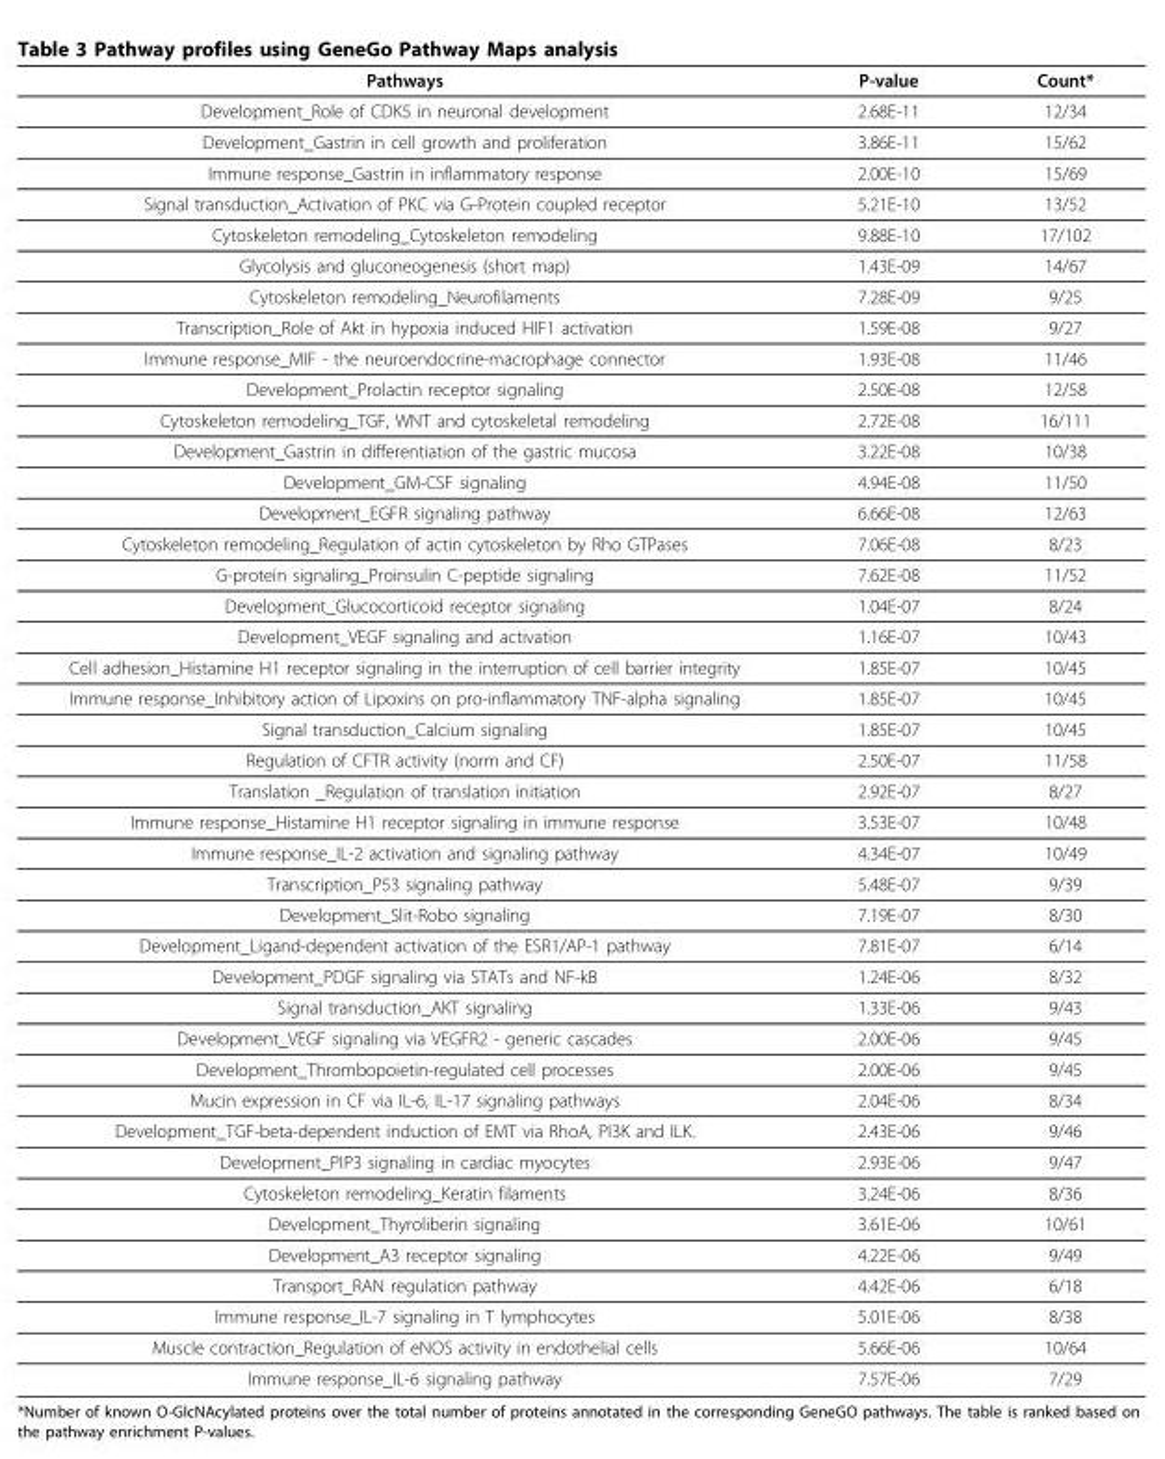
<table><thead><tr><td>Pathways</td><td>P-value</td><td>Count*</td></tr></thead><tbody><tr><td>Development_Role of CDK5 in neuronal development</td><td>2.68E-11</td><td>12/34</td></tr><tr><td>Development_Gastrin in cell growth and proliferation</td><td>3.86E-11</td><td>15/62</td></tr><tr><td>Immune response_Gastrin in inflammatory response</td><td>2.00E-10</td><td>15/69</td></tr><tr><td>Signal transduction_Activation of PKC via G-Protein coupled receptor</td><td>5.21E-10</td><td>13/52</td></tr><tr><td>Cytoskeleton remodeling_Cytoskeleton remodeling</td><td>9.88E-10</td><td>17/102</td></tr><tr><td>Glycolysis and gluconeogenesis (short map)</td><td>1.43E-09</td><td>14/67</td></tr><tr><td>Cytoskeleton remodeling_Neurofilaments</td><td>7.28E-09</td><td>9/25</td></tr><tr><td>Transcription_Role of Akt in hypoxia induced HIF1 activation</td><td>1.59E-08</td><td>9/27</td></tr><tr><td>Immune response_MIF - the neuroendocrine-macrophage connector</td><td>1.93E-08</td><td>11/46</td></tr><tr><td>Development_Prolactin receptor signaling</td><td>2.50E-08</td><td>12/58</td></tr><tr><td>Cytoskeleton remodeling_TGF, WNT and cytoskeletal remodeling</td><td>2.72E-08</td><td>16/111</td></tr><tr><td>Development_Gastrin in differentiation of the gastric mucosa</td><td>3.22E-08</td><td>10/38</td></tr><tr><td>Development_GM-CSF signaling</td><td>4.94E-08</td><td>11/50</td></tr><tr><td>Development_EGFR signaling pathway</td><td>6.66E-08</td><td>12/63</td></tr><tr><td>Cytoskeleton remodeling_Regulation of actin cytoskeleton by Rho GTPases</td><td>7.06E-08</td><td>8/23</td></tr><tr><td>G-protein signaling_Proinsulin C-peptide signaling</td><td>7.62E-08</td><td>11/52</td></tr><tr><td>Development_Glucocorticoid receptor signaling</td><td>1.04E-07</td><td>8/24</td></tr><tr><td>Development_VEGF signaling and activation</td><td>1.16E-07</td><td>10/43</td></tr><tr><td>Cell adhesion_Histamine H1 receptor signaling in the interruption of cell barrier integrity</td><td>1.85E-07</td><td>10/45</td></tr><tr><td>Immune response_Inhibitory action of Lipoxins on pro-inflammatory TNF-alpha signaling</td><td>1.85E-07</td><td>10/45</td></tr><tr><td>Signal transduction_Calcium signaling</td><td>1.85E-07</td><td>10/45</td></tr><tr><td>Regulation of CFTR activity (norm and CF)</td><td>2.50E-07</td><td>11/58</td></tr><tr><td>Translation _Regulation of translation initiation</td><td>2.92E-07</td><td>8/27</td></tr><tr><td>Immune response_Histamine H1 receptor signaling in immune response</td><td>3.53E-07</td><td>10/48</td></tr><tr><td>Immune response_IL-2 activation and signaling pathway</td><td>4.34E-07</td><td>10/49</td></tr><tr><td>Transcription_P53 signaling pathway</td><td>5.48E-07</td><td>9/39</td></tr><tr><td>Development_Slit-Robo signaling</td><td>7.19E-07</td><td>8/30</td></tr><tr><td>Development_Ligand-dependent activation of the ESR1/AP-1 pathway</td><td>7.81E-07</td><td>6/14</td></tr><tr><td>Development_PDGF signaling via STATs and NF-kB</td><td>1.24E-06</td><td>8/32</td></tr><tr><td>Signal transduction_AKT signaling</td><td>1.33E-06</td><td>9/43</td></tr><tr><td>Development_VEGF signaling via VEGFR2 - generic cascades</td><td>2.00E-06</td><td>9/45</td></tr><tr><td>Development_Thrombopoietin-regulated cell processes</td><td>2.00E-06</td><td>9/45</td></tr><tr><td>Mucin expression in CF via IL-6, IL-17 signaling pathways</td><td>2.04E-06</td><td>8/34</td></tr><tr><td>Development_TGF-beta-dependent induction of EMT via RhoA, PI3K and ILK.</td><td>2.43E-06</td><td>9/46</td></tr><tr><td>Development_PIP3 signaling in cardiac myocytes</td><td>2.93E-06</td><td>9/47</td></tr><tr><td>Cytoskeleton remodeling_Keratin filaments</td><td>3.24E-06</td><td>8/36</td></tr><tr><td>Development_Thyroliberin signaling</td><td>3.61E-06</td><td>10/61</td></tr><tr><td>Development_A3 receptor signaling</td><td>4.22E-06</td><td>9/49</td></tr><tr><td>Transport_RAN regulation pathway</td><td>4.42E-06</td><td>6/18</td></tr><tr><td>Immune response_IL-7 signaling in T lymphocytes</td><td>5.01E-06</td><td>8/38</td></tr><tr><td>Muscle contraction_Regulation of eNOS activity in endothelial cells</td><td>5.66E-06</td><td>10/64</td></tr><tr><td>Immune response_IL-6 signaling pathway</td><td>7.57E-06</td><td>7/29</td></tr></tbody></table>